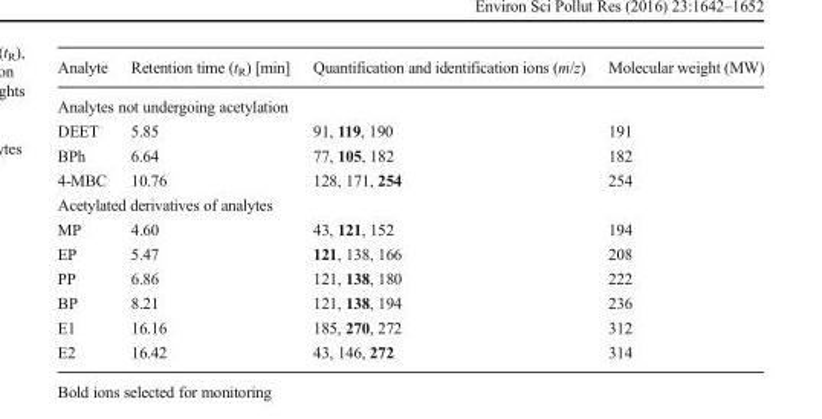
<table><thead><tr><td>Analyte</td><td>Retention time (t<sub>R</sub>) [min]</td><td>Quantification and identification ions (m/z)</td><td>Molecular weight (MW)</td></tr></thead><tbody><tr><td colspan="4">Analytes not undergoing acetylation</td></tr><tr><td>DEET</td><td>5.85</td><td>91, 119, 190</td><td>191</td></tr><tr><td>BPh</td><td>6.64</td><td>77, 105, 182</td><td>182</td></tr><tr><td>4-MBC</td><td>10.76</td><td>128, 171, 254</td><td>254</td></tr><tr><td colspan="4">Acetylated derivatives of analytes</td></tr><tr><td>MP</td><td>4.60</td><td>43, 121, 152</td><td>194</td></tr><tr><td>EP</td><td>5.47</td><td>121, 138, 166</td><td>208</td></tr><tr><td>PP</td><td>6.86</td><td>121, 138, 180</td><td>222</td></tr><tr><td>BP</td><td>8.21</td><td>121, 138, 194</td><td>236</td></tr><tr><td>E1</td><td>16.16</td><td>185, 270, 272</td><td>312</td></tr><tr><td>E2</td><td>16.42</td><td>43, 146, 272</td><td>314</td></tr></tbody></table>